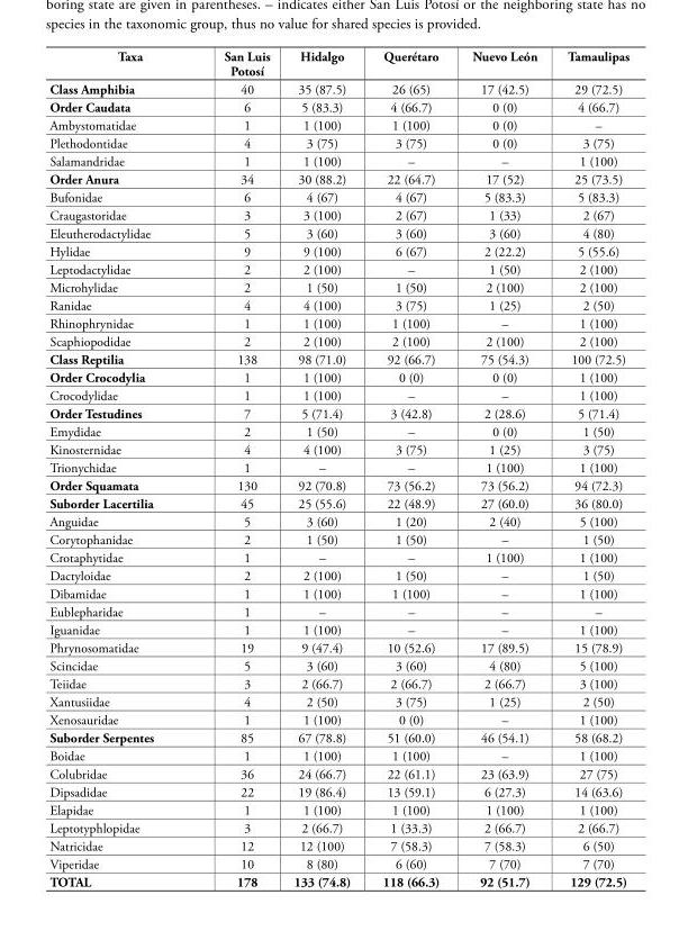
<table><thead><tr><td>Taxa</td><td>San Luis Potosí</td><td>Hidalgo</td><td>Querétaro</td><td>Nuevo León</td><td>Tamaulipas</td></tr></thead><tbody><tr><td>Class Amphibia</td><td>40</td><td>35 (87.5)</td><td>26 (65)</td><td>17 (42.5)</td><td>29 (72.5)</td></tr><tr><td>Order Caudata</td><td>6</td><td>5 (83.3)</td><td>4 (66.7)</td><td>0 (0)</td><td>4 (66.7)</td></tr><tr><td>Ambystomatidae</td><td>1</td><td>1 (100)</td><td>1 (100)</td><td>0 (0)</td><td>–</td></tr><tr><td>Plethodontidae</td><td>4</td><td>3 (75)</td><td>3 (75)</td><td>0 (0)</td><td>3 (75)</td></tr><tr><td>Salamandridae</td><td>1</td><td>1 (100)</td><td>–</td><td>–</td><td>1 (100)</td></tr><tr><td>Order Anura</td><td>34</td><td>30 (88.2)</td><td>22 (64.7)</td><td>17 (52)</td><td>25 (73.5)</td></tr><tr><td>Bufonidae</td><td>6</td><td>4 (67)</td><td>4 (67)</td><td>5 (83.3)</td><td>5 (83.3)</td></tr><tr><td>Craugastoridae</td><td>3</td><td>3 (100)</td><td>2 (67)</td><td>1 (33)</td><td>2 (67)</td></tr><tr><td>Eleutherodactylidae</td><td>5</td><td>3 (60)</td><td>3 (60)</td><td>3 (60)</td><td>4 (80)</td></tr><tr><td>Hylidae</td><td>9</td><td>9 (100)</td><td>6 (67)</td><td>2 (22.2)</td><td>5 (55.6)</td></tr><tr><td>Leptodactylidae</td><td>2</td><td>2 (100)</td><td>–</td><td>1 (50)</td><td>2 (100)</td></tr><tr><td>Microhylidae</td><td>2</td><td>1 (50)</td><td>1 (50)</td><td>2 (100)</td><td>2 (100)</td></tr><tr><td>Ranidae</td><td>4</td><td>4 (100)</td><td>3 (75)</td><td>1 (25)</td><td>2 (50)</td></tr><tr><td>Rhinophrynidae</td><td>1</td><td>1 (100)</td><td>1 (100)</td><td>–</td><td>1 (100)</td></tr><tr><td>Scaphiopodidae</td><td>2</td><td>2 (100)</td><td>2 (100)</td><td>2 (100)</td><td>2 (100)</td></tr><tr><td>Class Reptilia</td><td>138</td><td>98 (71.0)</td><td>92 (66.7)</td><td>75 (54.3)</td><td>100 (72.5)</td></tr><tr><td>Order Crocodylia</td><td>1</td><td>1 (100)</td><td>0 (0)</td><td>0 (0)</td><td>1 (100)</td></tr><tr><td>Crocodylidae</td><td>1</td><td>1 (100)</td><td>–</td><td>–</td><td>1 (100)</td></tr><tr><td>Order Testudines</td><td>7</td><td>5 (71.4)</td><td>3 (42.8)</td><td>2 (28.6)</td><td>5 (71.4)</td></tr><tr><td>Emydidae</td><td>2</td><td>1 (50)</td><td>–</td><td>0 (0)</td><td>1 (50)</td></tr><tr><td>Kinosternidae</td><td>4</td><td>4 (100)</td><td>3 (75)</td><td>1 (25)</td><td>3 (75)</td></tr><tr><td>Trionychidae</td><td>1</td><td>–</td><td>–</td><td>1 (100)</td><td>1 (100)</td></tr><tr><td>Order Squamata</td><td>130</td><td>92 (70.8)</td><td>73 (56.2)</td><td>73 (56.2)</td><td>94 (72.3)</td></tr><tr><td>Suborder Lacertilia</td><td>45</td><td>25 (55.6)</td><td>22 (48.9)</td><td>27 (60.0)</td><td>36 (80.0)</td></tr><tr><td>Anguidae</td><td>5</td><td>3 (60)</td><td>1 (20)</td><td>2 (40)</td><td>5 (100)</td></tr><tr><td>Corytophanidae</td><td>2</td><td>1 (50)</td><td>1 (50)</td><td>–</td><td>1 (50)</td></tr><tr><td>Crotaphytidae</td><td>1</td><td>–</td><td>–</td><td>1 (100)</td><td>1 (100)</td></tr><tr><td>Dactyloidae</td><td>2</td><td>2 (100)</td><td>1 (50)</td><td>–</td><td>1 (50)</td></tr><tr><td>Dibamidae</td><td>1</td><td>1 (100)</td><td>1 (100)</td><td>–</td><td>1 (100)</td></tr><tr><td>Eublepharidae</td><td>1</td><td>–</td><td>–</td><td>–</td><td>–</td></tr><tr><td>Iguanidae</td><td>1</td><td>1 (100)</td><td>–</td><td>–</td><td>1 (100)</td></tr><tr><td>Phrynosomatidae</td><td>19</td><td>9 (47.4)</td><td>10 (52.6)</td><td>17 (89.5)</td><td>15 (78.9)</td></tr><tr><td>Scincidae</td><td>5</td><td>3 (60)</td><td>3 (60)</td><td>4 (80)</td><td>5 (100)</td></tr><tr><td>Teiidae</td><td>3</td><td>2 (66.7)</td><td>2 (66.7)</td><td>2 (66.7)</td><td>3 (100)</td></tr><tr><td>Xantusiidae</td><td>4</td><td>2 (50)</td><td>3 (75)</td><td>1 (25)</td><td>2 (50)</td></tr><tr><td>Xenosauridae</td><td>1</td><td>1 (100)</td><td>0 (0)</td><td>–</td><td>1 (100)</td></tr><tr><td>Suborder Serpentes</td><td>85</td><td>67 (78.8)</td><td>51 (60.0)</td><td>46 (54.1)</td><td>58 (68.2)</td></tr><tr><td>Boidae</td><td>1</td><td>1 (100)</td><td>1 (100)</td><td>–</td><td>1 (100)</td></tr><tr><td>Colubridae</td><td>36</td><td>24 (66.7)</td><td>22 (61.1)</td><td>23 (63.9)</td><td>27 (75)</td></tr><tr><td>Dipsadidae</td><td>22</td><td>19 (86.4)</td><td>13 (59.1)</td><td>6 (27.3)</td><td>14 (63.6)</td></tr><tr><td>Elapidae</td><td>1</td><td>1 (100)</td><td>1 (100)</td><td>1 (100)</td><td>1 (100)</td></tr><tr><td>Leptotyphlopidae</td><td>3</td><td>2 (66.7)</td><td>1 (33.3)</td><td>2 (66.7)</td><td>2 (66.7)</td></tr><tr><td>Natricidae</td><td>12</td><td>12 (100)</td><td>7 (58.3)</td><td>7 (58.3)</td><td>6 (50)</td></tr><tr><td>Viperidae</td><td>10</td><td>8 (80)</td><td>6 (60)</td><td>7 (70)</td><td>7 (70)</td></tr><tr><td>TOTAL</td><td>178</td><td>133 (74.8)</td><td>118 (66.3)</td><td>92 (51.7)</td><td>129 (72.5)</td></tr></tbody></table>